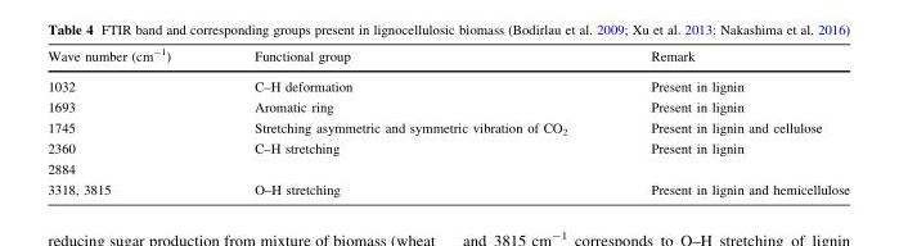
<table><thead><tr><td>Wave number (cm<sup>-1</sup>)</td><td>Functional group</td><td>Remark</td></tr></thead><tbody><tr><td>1032</td><td>C–H deformation</td><td>Present in lignin</td></tr><tr><td>1693</td><td>Aromatic ring</td><td>Present in lignin</td></tr><tr><td>1745</td><td>Stretching asymmetric and symmetric vibration of CO<sub>2</sub></td><td>Present in lignin and cellulose</td></tr><tr><td>2360</td><td>C–H stretching</td><td>Present in lignin</td></tr><tr><td colspan="3">2884</td></tr><tr><td>3318, 3815</td><td>O–H stretching</td><td>Present in lignin and hemicellulose</td></tr></tbody></table>